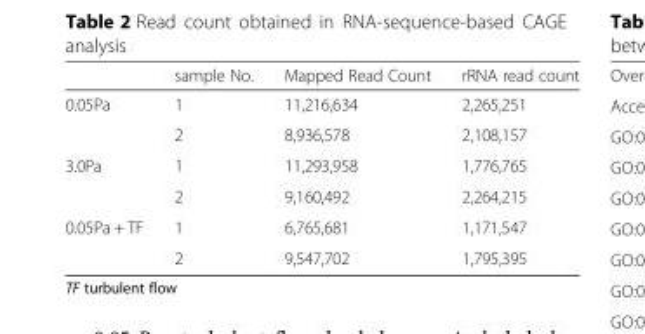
<table><thead><tr><td></td><td>sample No.</td><td>Mapped Read Count</td><td>rRNA read count</td></tr></thead><tbody><tr><td rowspan="2">0.05Pa</td><td>1</td><td>11,216,634</td><td>2,265,251</td></tr><tr><td>2</td><td>8,936,578</td><td>2,108,157</td></tr><tr><td rowspan="2">3.0Pa</td><td>1</td><td>11,293,958</td><td>1,776,765</td></tr><tr><td>2</td><td>9,160,492</td><td>2,264,215</td></tr><tr><td rowspan="2">0.05Pa + TF</td><td>1</td><td>6,765,681</td><td>1,171,547</td></tr><tr><td>2</td><td>9,547,702</td><td>1,795,395</td></tr></tbody></table>